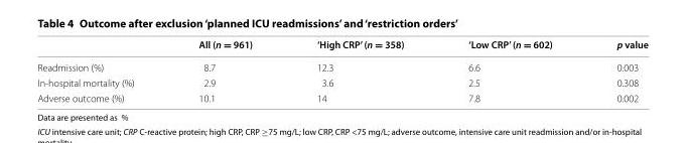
<table><thead><tr><td></td><td>All (n = 961)</td><td>‘High CRP’ (n = 358)</td><td>‘Low CRP’ (n = 602)</td><td>p value</td></tr></thead><tbody><tr><td>Readmission (%)</td><td>8.7</td><td>12.3</td><td>6.6</td><td>0.003</td></tr><tr><td>In-hospital mortality (%)</td><td>2.9</td><td>3.6</td><td>2.5</td><td>0.308</td></tr><tr><td>Adverse outcome (%)</td><td>10.1</td><td>14</td><td>7.8</td><td>0.002</td></tr></tbody></table>